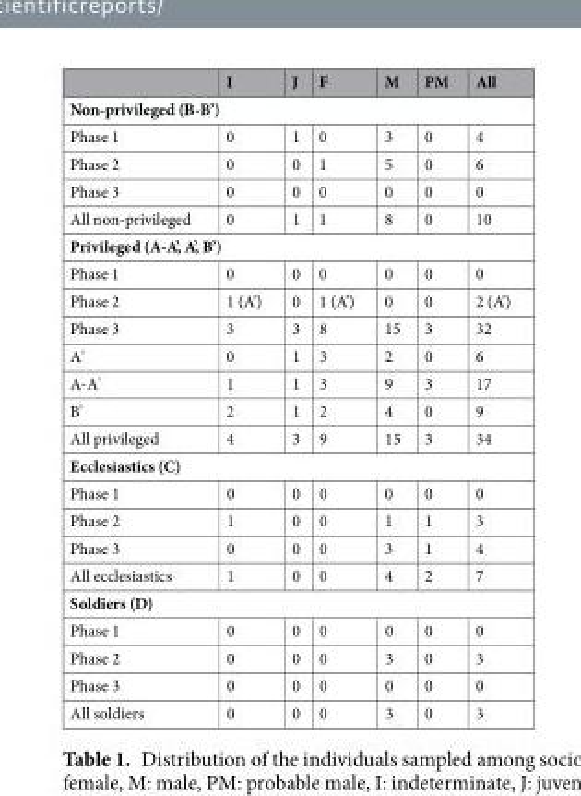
<table><thead><tr><td></td><td>I</td><td>J</td><td>F</td><td>M</td><td>PM</td><td>All</td></tr></thead><tbody><tr><td colspan="7">Non-privileged (B-B’)</td></tr><tr><td>Phase 1</td><td>0</td><td>1</td><td>0</td><td>3</td><td>0</td><td>4</td></tr><tr><td>Phase 2</td><td>0</td><td>0</td><td>1</td><td>5</td><td>0</td><td>6</td></tr><tr><td>Phase 3</td><td>0</td><td>0</td><td>0</td><td>0</td><td>0</td><td>0</td></tr><tr><td>All non-privileged</td><td>0</td><td>1</td><td>1</td><td>8</td><td>0</td><td>10</td></tr><tr><td colspan="7">Privileged (A-A’, A’, B’)</td></tr><tr><td>Phase 1</td><td>0</td><td>0</td><td>0</td><td>0</td><td>0</td><td>0</td></tr><tr><td>Phase 2</td><td>1 (A’)</td><td>0</td><td>1 (A’)</td><td>0</td><td>0</td><td>2 (A’)</td></tr><tr><td>Phase 3</td><td>3</td><td>3</td><td>8</td><td>15</td><td>3</td><td>32</td></tr><tr><td>A&#x27;</td><td>0</td><td>1</td><td>3</td><td>2</td><td>0</td><td>6</td></tr><tr><td>A-A&#x27;</td><td>1</td><td>1</td><td>3</td><td>9</td><td>3</td><td>17</td></tr><tr><td>B&#x27;</td><td>2</td><td>1</td><td>2</td><td>4</td><td>0</td><td>9</td></tr><tr><td>All privileged</td><td>4</td><td>3</td><td>9</td><td>15</td><td>3</td><td>34</td></tr><tr><td colspan="7">Ecclesiastics (C)</td></tr><tr><td>Phase 1</td><td>0</td><td>0</td><td>0</td><td>0</td><td>0</td><td>0</td></tr><tr><td>Phase 2</td><td>1</td><td>0</td><td>0</td><td>1</td><td>1</td><td>3</td></tr><tr><td>Phase 3</td><td>0</td><td>0</td><td>0</td><td>3</td><td>1</td><td>4</td></tr><tr><td>All ecclesiastics</td><td>1</td><td>0</td><td>0</td><td>4</td><td>2</td><td>7</td></tr><tr><td colspan="7">Soldiers (D)</td></tr><tr><td>Phase 1</td><td>0</td><td>0</td><td>0</td><td>0</td><td>0</td><td>0</td></tr><tr><td>Phase 2</td><td>0</td><td>0</td><td>0</td><td>3</td><td>0</td><td>3</td></tr><tr><td>Phase 3</td><td>0</td><td>0</td><td>0</td><td>0</td><td>0</td><td>0</td></tr><tr><td>All soldiers</td><td>0</td><td>0</td><td>0</td><td>3</td><td>0</td><td>3</td></tr></tbody></table>